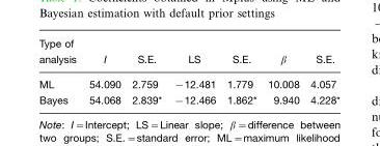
<table><thead><tr><td>Type of analysis</td><td>I</td><td>S.E.</td><td>LS</td><td>S.E.</td><td>β</td><td>S.E.</td></tr></thead><tbody><tr><td>ML</td><td>54.090</td><td>2.759</td><td>−12.481</td><td>1.779</td><td>10.008</td><td>4.057</td></tr><tr><td>Bayes</td><td>54.068</td><td>2.839*</td><td>−12.466</td><td>1.862*</td><td>9.940</td><td>4.228*</td></tr></tbody></table>